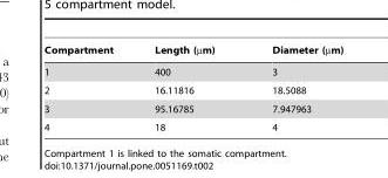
<table><thead><tr><td>Compartment</td><td>Length (µm)</td><td>Diameter (µm)</td></tr></thead><tbody><tr><td>1</td><td>400</td><td>3</td></tr><tr><td>2</td><td>16.11816</td><td>18.5088</td></tr><tr><td>3</td><td>95.16785</td><td>7.947963</td></tr><tr><td>4</td><td>18</td><td>4</td></tr></tbody></table>